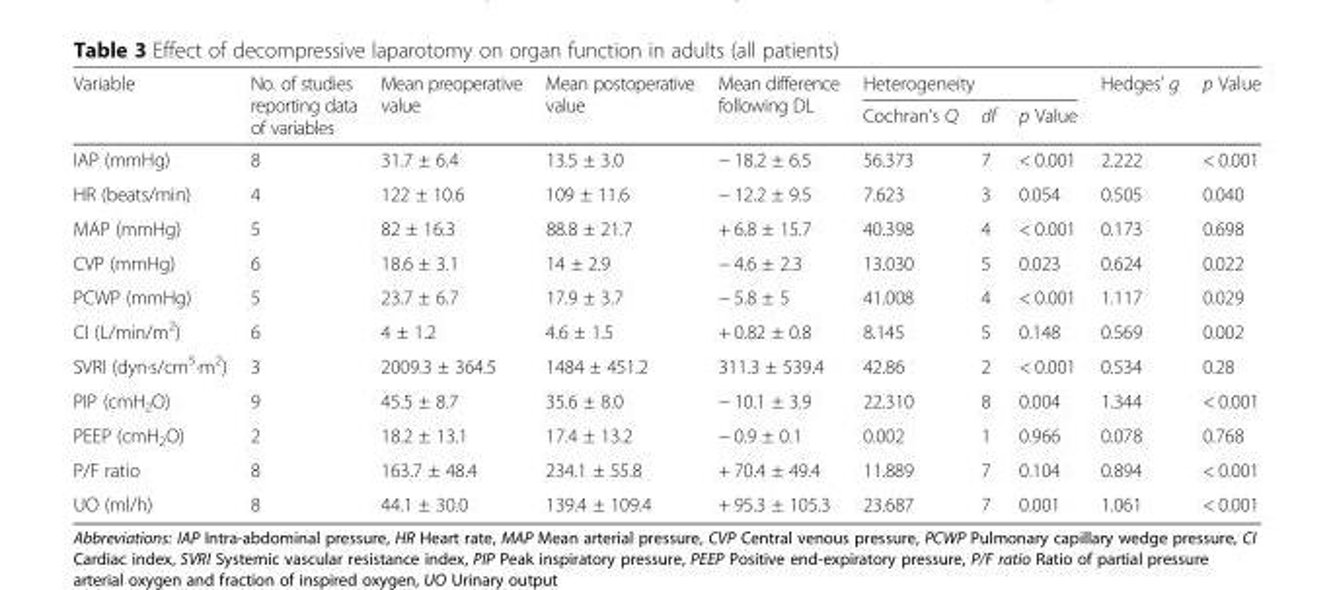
<table><thead><tr><td rowspan="2">Variable</td><td rowspan="2">No. of studies reporting data of variables</td><td rowspan="2">Mean preoperative value</td><td rowspan="2">Mean postoperative value</td><td rowspan="2">Mean difference following DL</td><td colspan="3">Heterogeneity</td><td rowspan="2">Hedges’ g</td><td rowspan="2">p Value</td></tr><tr><td>Cochran’s Q</td><td>df</td><td>p Value</td></tr></thead><tbody><tr><td>IAP (mmHg)</td><td>8</td><td>31.7 ± 6.4</td><td>13.5 ± 3.0</td><td>− 18.2 ± 6.5</td><td>56.373</td><td>7</td><td>&lt; 0.001</td><td>2.222</td><td>&lt; 0.001</td></tr><tr><td>HR (beats/min)</td><td>4</td><td>122 ± 10.6</td><td>109 ± 11.6</td><td>− 12.2 ± 9.5</td><td>7.623</td><td>3</td><td>0.054</td><td>0.505</td><td>0.040</td></tr><tr><td>MAP (mmHg)</td><td>5</td><td>82 ± 16.3</td><td>88.8 ± 21.7</td><td>+ 6.8 ± 15.7</td><td>40.398</td><td>4</td><td>&lt; 0.001</td><td>0.173</td><td>0.698</td></tr><tr><td>CVP (mmHg)</td><td>6</td><td>18.6 ± 3.1</td><td>14 ± 2.9</td><td>− 4.6 ± 2.3</td><td>13.030</td><td>5</td><td>0.023</td><td>0.624</td><td>0.022</td></tr><tr><td>PCWP (mmHg)</td><td>5</td><td>23.7 ± 6.7</td><td>17.9 ± 3.7</td><td>− 5.8 ± 5</td><td>41.008</td><td>4</td><td>&lt; 0.001</td><td>1.117</td><td>0.029</td></tr><tr><td>CI (L/min/m<sup>2</sup>)</td><td>6</td><td>4 ± 1.2</td><td>4.6 ± 1.5</td><td>+ 0.82 ± 0.8</td><td>8.145</td><td>5</td><td>0.148</td><td>0.569</td><td>0.002</td></tr><tr><td>SVRI (dyn·s/cm<sup>5</sup>·m<sup>2</sup>)</td><td>3</td><td>2009.3 ± 364.5</td><td>1484 ± 451.2</td><td>311.3 ± 539.4</td><td>42.86</td><td>2</td><td>&lt; 0.001</td><td>0.534</td><td>0.28</td></tr><tr><td>PIP (cmH<sub>2</sub>O)</td><td>9</td><td>45.5 ± 8.7</td><td>35.6 ± 8.0</td><td>− 10.1 ± 3.9</td><td>22.310</td><td>8</td><td>0.004</td><td>1.344</td><td>&lt; 0.001</td></tr><tr><td>PEEP (cmH<sub>2</sub>O)</td><td>2</td><td>18.2 ± 13.1</td><td>17.4 ± 13.2</td><td>− 0.9 ± 0.1</td><td>0.002</td><td>1</td><td>0.966</td><td>0.078</td><td>0.768</td></tr><tr><td>P/F ratio</td><td>8</td><td>163.7 ± 48.4</td><td>234.1 ± 55.8</td><td>+ 70.4 ± 49.4</td><td>11.889</td><td>7</td><td>0.104</td><td>0.894</td><td>&lt; 0.001</td></tr><tr><td>UO (ml/h)</td><td>8</td><td>44.1 ± 30.0</td><td>139.4 ± 109.4</td><td>+ 95.3 ± 105.3</td><td>23.687</td><td>7</td><td>0.001</td><td>1.061</td><td>&lt; 0.001</td></tr></tbody></table>